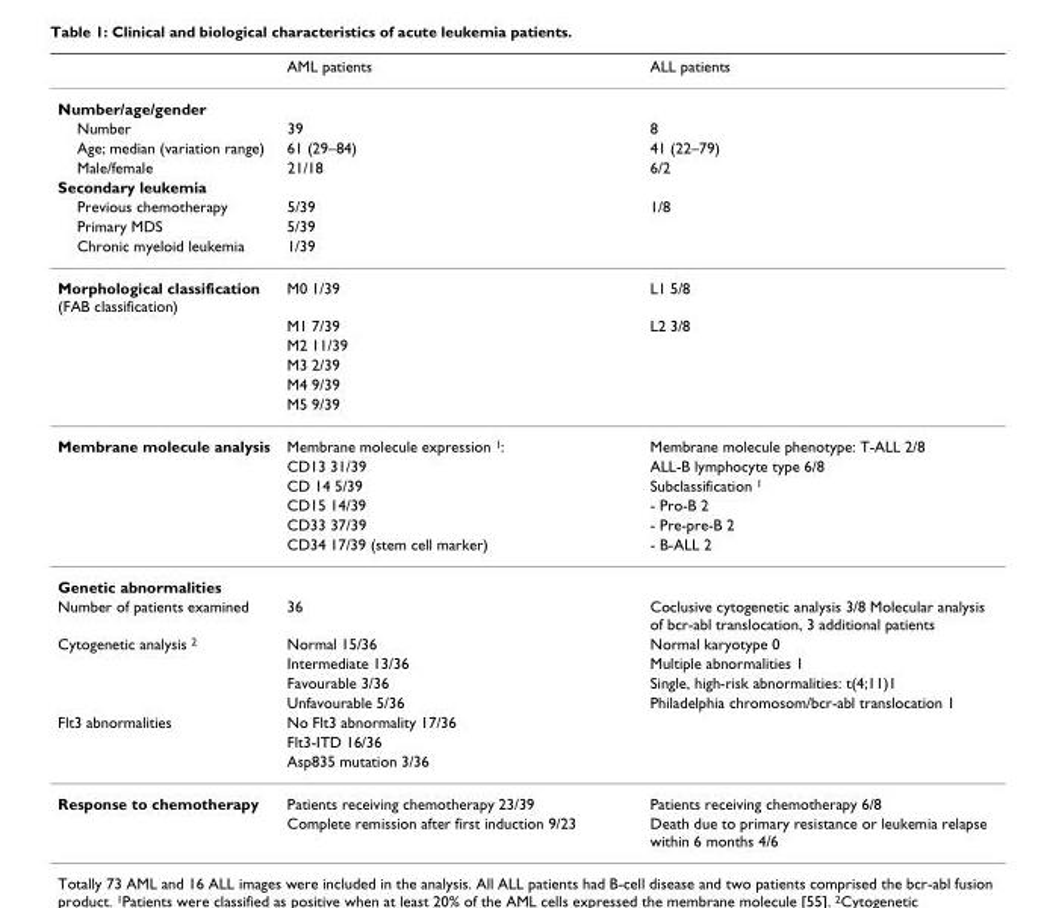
<table><thead><tr><td></td><td>AML patients</td><td>ALL patients</td></tr></thead><tbody><tr><td colspan="3">Number/age/gender</td></tr><tr><td>Number</td><td>39</td><td>8</td></tr><tr><td>Age; median (variation range)</td><td>61 (29–84)</td><td>41 (22–79)</td></tr><tr><td>Male/female</td><td>21/18</td><td>6/2</td></tr><tr><td colspan="3">Secondary leukemia</td></tr><tr><td>Previous chemotherapy</td><td>5/39</td><td>1/8</td></tr><tr><td>Primary MDS</td><td>5/39</td><td></td></tr><tr><td>Chronic myeloid leukemia</td><td>1/39</td><td></td></tr><tr><td rowspan="6">Morphological classification (FAB classification)</td><td>M0 1/39</td><td>L1 5/8</td></tr><tr><td>M1 7/39</td><td>L2 3/8</td></tr><tr><td>M2 11/39</td><td></td></tr><tr><td>M3 2/39</td><td></td></tr><tr><td>M4 9/39</td><td></td></tr><tr><td>M5 9/39</td><td></td></tr><tr><td rowspan="6">Membrane molecule analysis</td><td>Membrane molecule expression 1:</td><td>Membrane molecule phenotype: T-ALL 2/8</td></tr><tr><td>CD13 31/39</td><td>ALL-B lymphocyte type 6/8</td></tr><tr><td>CD 14 5/39</td><td>Subclassification 1</td></tr><tr><td>CD15 14/39</td><td>- Pro-B 2</td></tr><tr><td>CD33 37/39</td><td>- Pre-pre-B 2</td></tr><tr><td>CD34 17/39 (stem cell marker)</td><td>- B-ALL 2</td></tr><tr><td colspan="3">Genetic abnormalities</td></tr><tr><td>Number of patients examined</td><td>36</td><td>Coclusive cytogenetic analysis 3/8 Molecular analysis of bcr-abl translocation, 3 additional patients</td></tr><tr><td rowspan="4">Cytogenetic analysis 2</td><td>Normal 15/36</td><td>Normal karyotype 0</td></tr><tr><td>Intermediate 13/36</td><td>Multiple abnormalities 1</td></tr><tr><td>Favourable 3/36</td><td>Single, high-risk abnormalities: t(4;11)1</td></tr><tr><td>Unfavourable 5/36</td><td>Philadelphia chromosom/bcr-abl translocation 1</td></tr><tr><td rowspan="3">Flt3 abnormalities</td><td>No Flt3 abnormality 17/36</td><td></td></tr><tr><td>Flt3-ITD 16/36</td><td></td></tr><tr><td>Asp835 mutation 3/36</td><td></td></tr><tr><td rowspan="2">Response to chemotherapy</td><td>Patients receiving chemotherapy 23/39</td><td>Patients receiving chemotherapy 6/8</td></tr><tr><td>Complete remission after first induction 9/23</td><td>Death due to primary resistance or leukemia relapse within 6 months 4/6</td></tr></tbody></table>